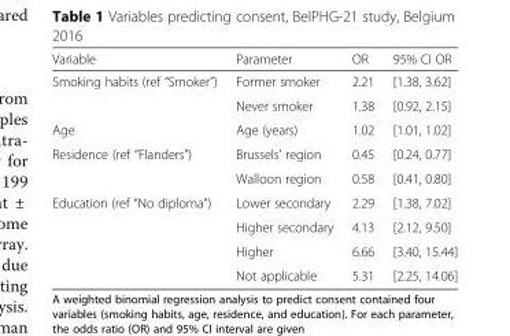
<table><thead><tr><td>Variable</td><td>Parameter</td><td>OR</td><td>95% CI OR</td></tr></thead><tbody><tr><td rowspan="2">Smoking habits (ref “Smoker”)</td><td>Former smoker</td><td>2.21</td><td>[1.38, 3.62]</td></tr><tr><td>Never smoker</td><td>1.38</td><td>[0.92, 2.15]</td></tr><tr><td>Age</td><td>Age (years)</td><td>1.02</td><td>[1.01, 1.02]</td></tr><tr><td rowspan="2">Residence (ref “Flanders”)</td><td>Brussels’ region</td><td>0.45</td><td>[0.24, 0.77]</td></tr><tr><td>Walloon region</td><td>0.58</td><td>[0.41, 0.80]</td></tr><tr><td rowspan="4">Education (ref “No diploma”)</td><td>Lower secondary</td><td>2.29</td><td>[1.38, 7.02]</td></tr><tr><td>Higher secondary</td><td>4.13</td><td>[2.12, 9.50]</td></tr><tr><td>Higher</td><td>6.66</td><td>[3.40, 15.44]</td></tr><tr><td>Not applicable</td><td>5.31</td><td>[2.25, 14.06]</td></tr></tbody></table>